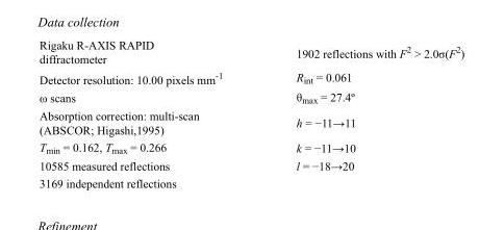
<table><tbody><tr><td>Rigaku R-AXIS RAPID diffractometer</td><td>1902 reflections with F<sup>2</sup> &gt; 2.0σ(F<sup>2</sup>)</td></tr><tr><td>Detector resolution: 10.00 pixels mm<sup>-1</sup></td><td>R<sub>int</sub> = 0.061</td></tr><tr><td>ω scans</td><td>θ<sub>max</sub> = 27.4º</td></tr><tr><td>Absorption correction: multi-scan (ABSCOR; Higashi,1995)</td><td>h = −11→11</td></tr><tr><td>T<sub>min</sub> = 0.162, T<sub>max</sub> = 0.266</td><td>k = −11→10</td></tr><tr><td>10585 measured reflections</td><td>l = −18→20</td></tr><tr><td>3169 independent reflections</td><td></td></tr></tbody></table>